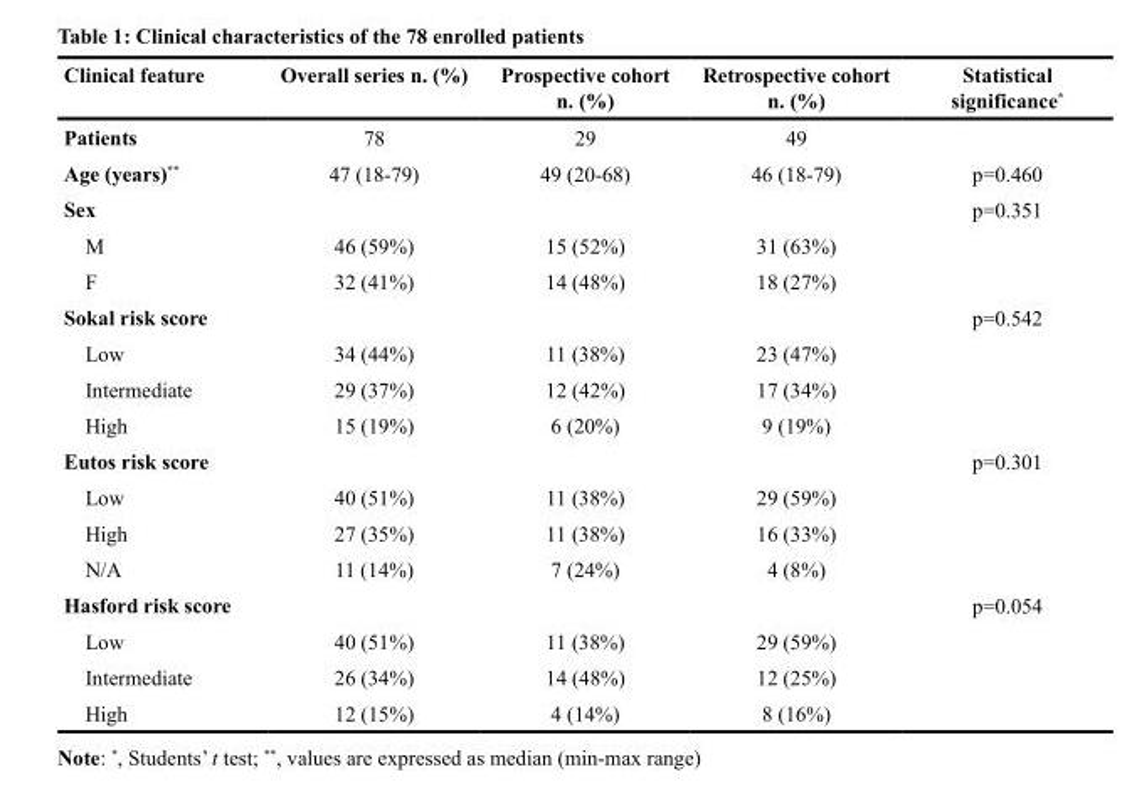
<table><thead><tr><td>Clinical feature</td><td>Overall series n. (%)</td><td>Prospective cohort n. (%)</td><td>Retrospective cohort n. (%)</td><td>Statistical significance*</td></tr></thead><tbody><tr><td>Patients</td><td>78</td><td>29</td><td>49</td><td></td></tr><tr><td>Age (years)**</td><td>47 (18-79)</td><td>49 (20-68)</td><td>46 (18-79)</td><td>p=0.460</td></tr><tr><td>Sex</td><td></td><td></td><td></td><td>p=0.351</td></tr><tr><td>M</td><td>46 (59%)</td><td>15 (52%)</td><td>31 (63%)</td><td></td></tr><tr><td>F</td><td>32 (41%)</td><td>14 (48%)</td><td>18 (27%)</td><td></td></tr><tr><td>Sokal risk score</td><td></td><td></td><td></td><td>p=0.542</td></tr><tr><td>Low</td><td>34 (44%)</td><td>11 (38%)</td><td>23 (47%)</td><td></td></tr><tr><td>Intermediate</td><td>29 (37%)</td><td>12 (42%)</td><td>17 (34%)</td><td></td></tr><tr><td>High</td><td>15 (19%)</td><td>6 (20%)</td><td>9 (19%)</td><td></td></tr><tr><td>Eutos risk score</td><td></td><td></td><td></td><td>p=0.301</td></tr><tr><td>Low</td><td>40 (51%)</td><td>11 (38%)</td><td>29 (59%)</td><td></td></tr><tr><td>High</td><td>27 (35%)</td><td>11 (38%)</td><td>16 (33%)</td><td></td></tr><tr><td>N/A</td><td>11 (14%)</td><td>7 (24%)</td><td>4 (8%)</td><td></td></tr><tr><td>Hasford risk score</td><td></td><td></td><td></td><td>p=0.054</td></tr><tr><td>Low</td><td>40 (51%)</td><td>11 (38%)</td><td>29 (59%)</td><td></td></tr><tr><td>Intermediate</td><td>26 (34%)</td><td>14 (48%)</td><td>12 (25%)</td><td></td></tr><tr><td>High</td><td>12 (15%)</td><td>4 (14%)</td><td>8 (16%)</td><td></td></tr></tbody></table>